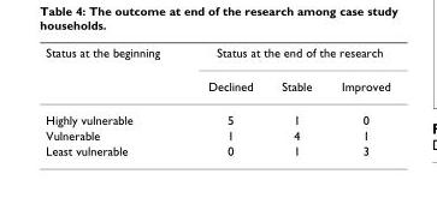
<table><thead><tr><td rowspan="2">Status at the beginning</td><td colspan="3">Status at the end of the research</td></tr><tr><td>Declined</td><td>Stable</td><td>Improved</td></tr></thead><tbody><tr><td>Highly vulnerable</td><td>5</td><td>1</td><td>0</td></tr><tr><td>Vulnerable</td><td>1</td><td>4</td><td>1</td></tr><tr><td>Least vulnerable</td><td>0</td><td>1</td><td>3</td></tr></tbody></table>